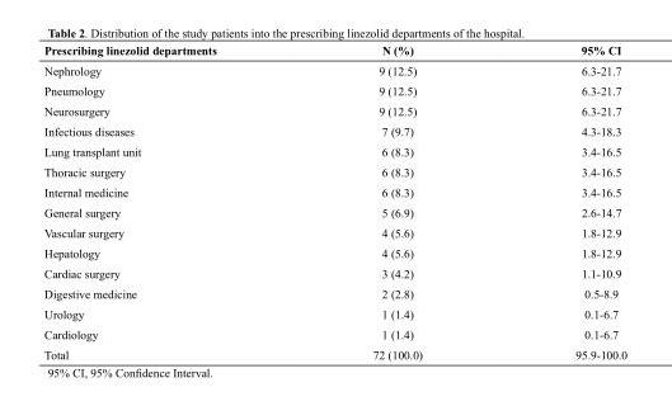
<table><thead><tr><td>Prescribing linezolid departments</td><td>N (%)</td><td>95% CI</td></tr></thead><tbody><tr><td>Nephrology</td><td>9 (12.5)</td><td>6.3-21.7</td></tr><tr><td>Pneumology</td><td>9 (12.5)</td><td>6.3-21.7</td></tr><tr><td>Neurosurgery</td><td>9 (12.5)</td><td>6.3-21.7</td></tr><tr><td>Infectious diseases</td><td>7 (9.7)</td><td>4.3-18.3</td></tr><tr><td>Lung transplant unit</td><td>6 (8.3)</td><td>3.4-16.5</td></tr><tr><td>Thoracic surgery</td><td>6 (8.3)</td><td>3.4-16.5</td></tr><tr><td>Internal medicine</td><td>6 (8.3)</td><td>3.4-16.5</td></tr><tr><td>General surgery</td><td>5 (6.9)</td><td>2.6-14.7</td></tr><tr><td>Vascular surgery</td><td>4 (5.6)</td><td>1.8-12.9</td></tr><tr><td>Hepatology</td><td>4 (5.6)</td><td>1.8-12.9</td></tr><tr><td>Cardiac surgery</td><td>3 (4.2)</td><td>1.1-10.9</td></tr><tr><td>Digestive medicine</td><td>2 (2.8)</td><td>0.5-8.9</td></tr><tr><td>Urology</td><td>1 (1.4)</td><td>0.1-6.7</td></tr><tr><td>Cardiology</td><td>1 (1.4)</td><td>0.1-6.7</td></tr><tr><td>Total</td><td>72 (100.0)</td><td>95.9-100.0</td></tr></tbody></table>